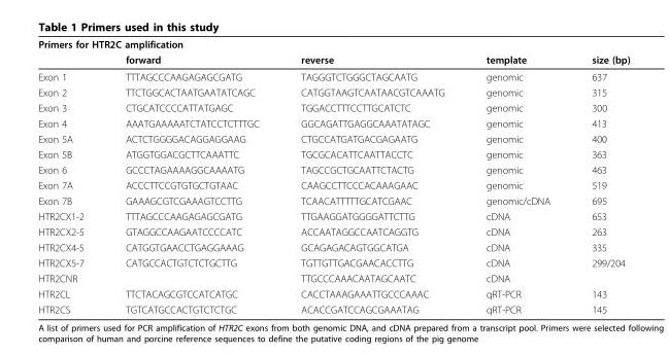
<table><thead><tr><td colspan="3">Primers for HTR2C amplification</td><td rowspan="2">template</td><td rowspan="2">size (bp)</td></tr><tr><td></td><td>forward</td><td>reverse</td></tr></thead><tbody><tr><td>Exon 1</td><td>TTTAGCCCAAGAGAGCGATG</td><td>TAGGGTCTGGGCTAGCAATG</td><td>genomic</td><td>637</td></tr><tr><td>Exon 2</td><td>TTCTGGCACTAATGAATATCAGC</td><td>CATGGTAAGTCAATAACGTCAAATG</td><td>genomic</td><td>315</td></tr><tr><td>Exon 3</td><td>CTGCATCCCCATTATGAGC</td><td>TGGACCTTTCCTTGCATCTC</td><td>genomic</td><td>300</td></tr><tr><td>Exon 4</td><td>AAATGAAAAATCTATCCTCTTTGC</td><td>GGCAGATTGAGGCAAATATAGC</td><td>genomic</td><td>413</td></tr><tr><td>Exon 5A</td><td>ACTCTGGGGACAGGAGGAAG</td><td>CTGCCATGATGACGAGAATG</td><td>genomic</td><td>400</td></tr><tr><td>Exon 5B</td><td>ATGGTGGACGCTTCAAATTC</td><td>TGCGCACATTCAATTACCTC</td><td>genomic</td><td>363</td></tr><tr><td>Exon 6</td><td>GCCCTAGAAAAGGCAAAATG</td><td>TAGCCGCTGCAATTCTACTG</td><td>genomic</td><td>463</td></tr><tr><td>Exon 7A</td><td>ACCCTTCCGTGTGCTGTAAC</td><td>CAAGCCTTCCCACAAAGAAC</td><td>genomic</td><td>519</td></tr><tr><td>Exon 7B</td><td>GAAAGCGTCGAAAGTCCTTG</td><td>TCAACATTTTTGCATCGAAC</td><td>genomic/cDNA</td><td>695</td></tr><tr><td>HTR2CX1-2</td><td>TTTAGCCCAAGAGAGCGATG</td><td>TTGAAGGATGGGGATTCTTG</td><td>cDNA</td><td>653</td></tr><tr><td>HTR2CX2-5</td><td>GTAGGCCAAGAATCCCCATC</td><td>ACCAATAGGCCAATCAGGTG</td><td>cDNA</td><td>263</td></tr><tr><td>HTR2CX4-5</td><td>CATGGTGAACCTGAGGAAAG</td><td>GCAGAGACAGTGGCATGA</td><td>cDNA</td><td>335</td></tr><tr><td>HTR2CX5-7</td><td>CATGCCACTGTCTCTGCTTG</td><td>TGTTGTTGACGAACACCTTG</td><td>cDNA</td><td>299/204</td></tr><tr><td>HTR2CNR</td><td></td><td>TTGCCCAAACAATAGCAATC</td><td>cDNA</td><td></td></tr><tr><td>HTR2CL</td><td>TTCTACAGCGTCCATCATGC</td><td>CACCTAAAGAAATTGCCCAAAC</td><td>qRT-PCR</td><td>143</td></tr><tr><td>HTR2CS</td><td>TGTCATGCCACTGTCTCTGC</td><td>ACACCGATCCAGCGAAATAG</td><td>qRT-PCR</td><td>145</td></tr></tbody></table>